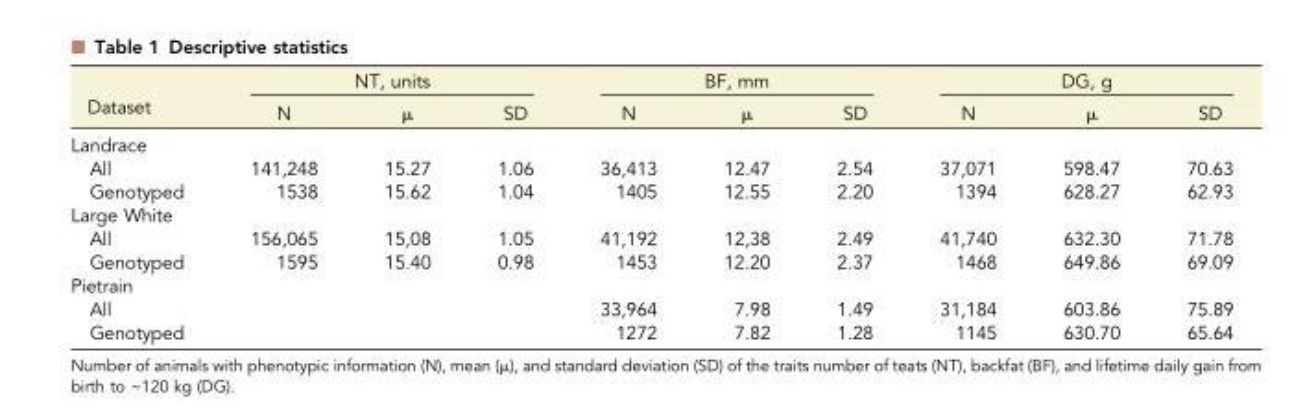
<table><thead><tr><td rowspan="2">Dataset</td><td colspan="3">NT, units</td><td colspan="3">BF, mm</td><td colspan="3">DG, g</td></tr><tr><td>N</td><td>μ</td><td>SD</td><td>N</td><td>μ</td><td>SD</td><td>N</td><td>μ</td><td>SD</td></tr></thead><tbody><tr><td colspan="10">Landrace</td></tr><tr><td>All</td><td>141,248</td><td>15.27</td><td>1.06</td><td>36,413</td><td>12.47</td><td>2.54</td><td>37,071</td><td>598.47</td><td>70.63</td></tr><tr><td>Genotyped</td><td>1538</td><td>15.62</td><td>1.04</td><td>1405</td><td>12.55</td><td>2.20</td><td>1394</td><td>628.27</td><td>62.93</td></tr><tr><td colspan="10">Large White</td></tr><tr><td>All</td><td>156,065</td><td>15,08</td><td>1.05</td><td>41,192</td><td>12,38</td><td>2.49</td><td>41,740</td><td>632.30</td><td>71.78</td></tr><tr><td>Genotyped</td><td>1595</td><td>15.40</td><td>0.98</td><td>1453</td><td>12.20</td><td>2.37</td><td>1468</td><td>649.86</td><td>69.09</td></tr><tr><td colspan="10">Pietrain</td></tr><tr><td>All</td><td></td><td></td><td></td><td>33,964</td><td>7.98</td><td>1.49</td><td>31,184</td><td>603.86</td><td>75.89</td></tr><tr><td>Genotyped</td><td></td><td></td><td></td><td>1272</td><td>7.82</td><td>1.28</td><td>1145</td><td>630.70</td><td>65.64</td></tr></tbody></table>